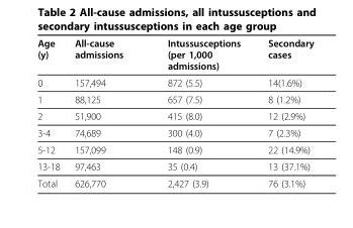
<table><thead><tr><td>Age (y)</td><td>All-cause admissions</td><td>Intussusceptions (per 1,000 admissions)</td><td>Secondary cases</td></tr></thead><tbody><tr><td>0</td><td>157,494</td><td>872 (5.5)</td><td>14(1.6%)</td></tr><tr><td>1</td><td>88,125</td><td>657 (7.5)</td><td>8 (1.2%)</td></tr><tr><td>2</td><td>51,900</td><td>415 (8.0)</td><td>12 (2.9%)</td></tr><tr><td>3-4</td><td>74,689</td><td>300 (4.0)</td><td>7 (2.3%)</td></tr><tr><td>5-12</td><td>157,099</td><td>148 (0.9)</td><td>22 (14.9%)</td></tr><tr><td>13-18</td><td>97,463</td><td>35 (0.4)</td><td>13 (37.1%)</td></tr><tr><td>Total</td><td>626,770</td><td>2,427 (3.9)</td><td>76 (3.1%)</td></tr></tbody></table>